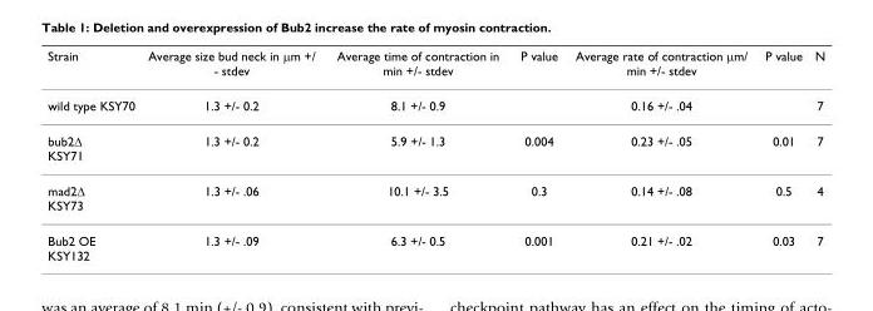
<table><thead><tr><td>Strain</td><td>Average size bud neck in μm +/ - stdev</td><td>Average time of contraction in min +/- stdev</td><td>P value</td><td>Average rate of contraction μm/ min +/- stdev</td><td>P value</td><td>N</td></tr></thead><tbody><tr><td>wild type KSY70</td><td>1.3 +/- 0.2</td><td>8.1 +/- 0.9</td><td></td><td>0.16 +/- .04</td><td></td><td>7</td></tr><tr><td>bub2Δ KSY71</td><td>1.3 +/- 0.2</td><td>5.9 +/- 1.3</td><td>0.004</td><td>0.23 +/- .05</td><td>0.01</td><td>7</td></tr><tr><td>mad2Δ KSY73</td><td>1.3 +/- .06</td><td>10.1 +/- 3.5</td><td>0.3</td><td>0.14 +/- .08</td><td>0.5</td><td>4</td></tr><tr><td>Bub2 OE KSY132</td><td>1.3 +/- .09</td><td>6.3 +/- 0.5</td><td>0.001</td><td>0.21 +/- .02</td><td>0.03</td><td>7</td></tr></tbody></table>